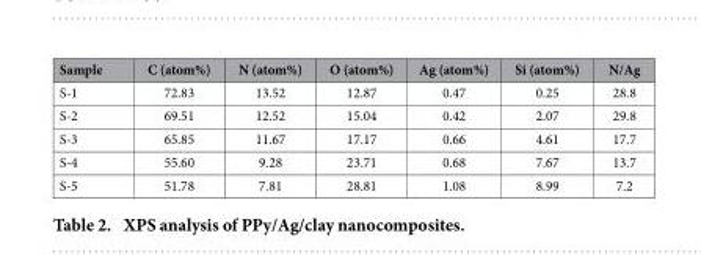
<table><thead><tr><td>Sample</td><td>C (atom%)</td><td>N (atom%)</td><td>O (atom%)</td><td>Ag (atom%)</td><td>Si (atom%)</td><td>N/Ag</td></tr></thead><tbody><tr><td>S-1</td><td>72.83</td><td>13.52</td><td>12.87</td><td>0.47</td><td>0.25</td><td>28.8</td></tr><tr><td>S-2</td><td>69.51</td><td>12.52</td><td>15.04</td><td>0.42</td><td>2.07</td><td>29.8</td></tr><tr><td>S-3</td><td>65.85</td><td>11.67</td><td>17.17</td><td>0.66</td><td>4.61</td><td>17.7</td></tr><tr><td>S-4</td><td>55.60</td><td>9.28</td><td>23.71</td><td>0.68</td><td>7.67</td><td>13.7</td></tr><tr><td>S-5</td><td>51.78</td><td>7.81</td><td>28.81</td><td>1.08</td><td>8.99</td><td>7.2</td></tr></tbody></table>